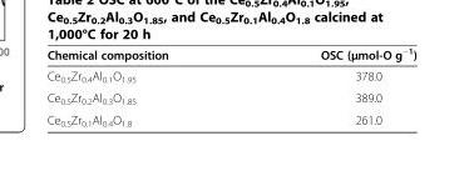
<table><thead><tr><td>Chemical composition</td><td>OSC (μmol-O g<sup>−1</sup>)</td></tr></thead><tbody><tr><td>Ce<sub>0.5</sub>Zr<sub>0.4</sub>Al<sub>0.1</sub>O<sub>1.95</sub></td><td>378.0</td></tr><tr><td>Ce<sub>0.5</sub>Zr<sub>0.2</sub>Al<sub>0.3</sub>O<sub>1.85</sub></td><td>389.0</td></tr><tr><td>Ce<sub>0.5</sub>Zr<sub>0.1</sub>Al<sub>0.4</sub>O<sub>1.8</sub></td><td>261.0</td></tr></tbody></table>